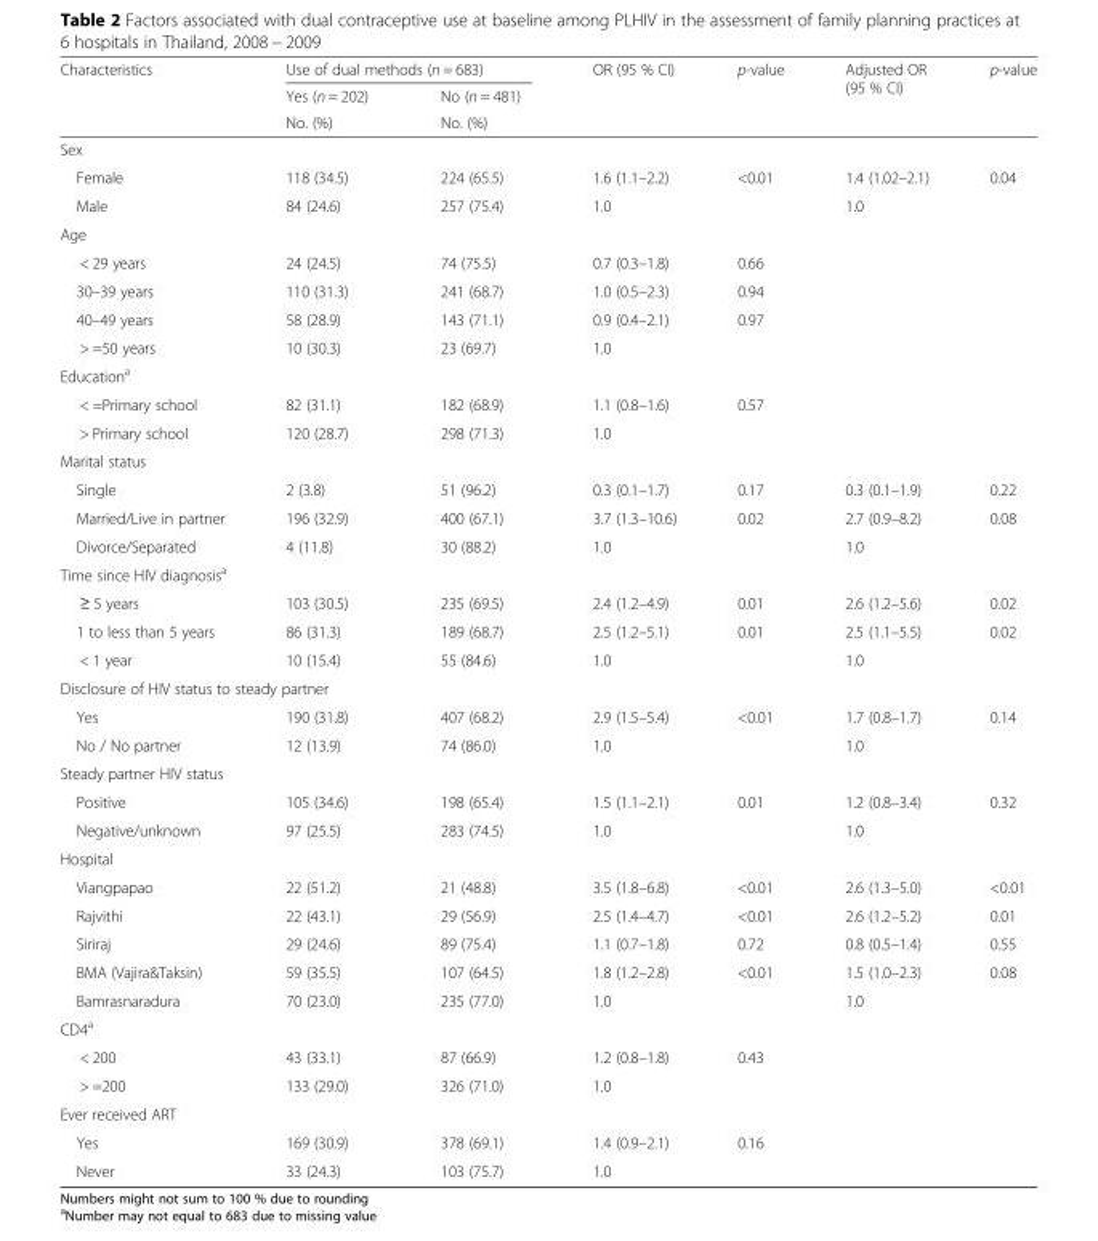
<table><thead><tr><td rowspan="3">Characteristics</td><td colspan="2">Use of dual methods (n = 683)</td><td rowspan="3">OR (95 % CI)</td><td rowspan="3">p-value</td><td rowspan="3">Adjusted OR (95 % CI)</td><td rowspan="3">p-value</td></tr><tr><td rowspan="2">Yes (n = 202) No. (%)</td><td rowspan="2">No (n = 481) No. (%)</td></tr><tr></tr></thead><tbody><tr><td colspan="7">Sex</td></tr><tr><td>Female</td><td>118 (34.5)</td><td>224 (65.5)</td><td>1.6 (1.1–2.2)</td><td>&lt;0.01</td><td>1.4 (1.02–2.1)</td><td>0.04</td></tr><tr><td>Male</td><td>84 (24.6)</td><td>257 (75.4)</td><td>1.0</td><td></td><td>1.0</td><td></td></tr><tr><td colspan="7">Age</td></tr><tr><td>&lt; 29 years</td><td>24 (24.5)</td><td>74 (75.5)</td><td>0.7 (0.3–1.8)</td><td>0.66</td><td></td><td></td></tr><tr><td>30–39 years</td><td>110 (31.3)</td><td>241 (68.7)</td><td>1.0 (0.5–2.3)</td><td>0.94</td><td></td><td></td></tr><tr><td>40–49 years</td><td>58 (28.9)</td><td>143 (71.1)</td><td>0.9 (0.4–2.1)</td><td>0.97</td><td></td><td></td></tr><tr><td>&gt; =50 years</td><td>10 (30.3)</td><td>23 (69.7)</td><td>1.0</td><td></td><td></td><td></td></tr><tr><td colspan="7">Education<sup>a</sup></td></tr><tr><td>&lt; =Primary school</td><td>82 (31.1)</td><td>182 (68.9)</td><td>1.1 (0.8–1.6)</td><td>0.57</td><td></td><td></td></tr><tr><td>&gt; Primary school</td><td>120 (28.7)</td><td>298 (71.3)</td><td>1.0</td><td></td><td></td><td></td></tr><tr><td colspan="7">Marital status</td></tr><tr><td>Single</td><td>2 (3.8)</td><td>51 (96.2)</td><td>0.3 (0.1–1.7)</td><td>0.17</td><td>0.3 (0.1–1.9)</td><td>0.22</td></tr><tr><td>Married/Live in partner</td><td>196 (32.9)</td><td>400 (67.1)</td><td>3.7 (1.3–10.6)</td><td>0.02</td><td>2.7 (0.9–8.2)</td><td>0.08</td></tr><tr><td>Divorce/Separated</td><td>4 (11.8)</td><td>30 (88.2)</td><td>1.0</td><td></td><td>1.0</td><td></td></tr><tr><td colspan="7">Time since HIV diagnosis<sup>a</sup></td></tr><tr><td>≥ 5 years</td><td>103 (30.5)</td><td>235 (69.5)</td><td>2.4 (1.2–4.9)</td><td>0.01</td><td>2.6 (1.2–5.6)</td><td>0.02</td></tr><tr><td>1 to less than 5 years</td><td>86 (31.3)</td><td>189 (68.7)</td><td>2.5 (1.2–5.1)</td><td>0.01</td><td>2.5 (1.1–5.5)</td><td>0.02</td></tr><tr><td>&lt; 1 year</td><td>10 (15.4)</td><td>55 (84.6)</td><td>1.0</td><td></td><td>1.0</td><td></td></tr><tr><td colspan="7">Disclosure of HIV status to steady partner</td></tr><tr><td>Yes</td><td>190 (31.8)</td><td>407 (68.2)</td><td>2.9 (1.5–5.4)</td><td>&lt;0.01</td><td>1.7 (0.8–1.7)</td><td>0.14</td></tr><tr><td>No / No partner</td><td>12 (13.9)</td><td>74 (86.0)</td><td>1.0</td><td></td><td>1.0</td><td></td></tr><tr><td colspan="7">Steady partner HIV status</td></tr><tr><td>Positive</td><td>105 (34.6)</td><td>198 (65.4)</td><td>1.5 (1.1–2.1)</td><td>0.01</td><td>1.2 (0.8–3.4)</td><td>0.32</td></tr><tr><td>Negative/unknown</td><td>97 (25.5)</td><td>283 (74.5)</td><td>1.0</td><td></td><td>1.0</td><td></td></tr><tr><td colspan="7">Hospital</td></tr><tr><td>Viangpapao</td><td>22 (51.2)</td><td>21 (48.8)</td><td>3.5 (1.8–6.8)</td><td>&lt;0.01</td><td>2.6 (1.3–5.0)</td><td>&lt;0.01</td></tr><tr><td>Rajvithi</td><td>22 (43.1)</td><td>29 (56.9)</td><td>2.5 (1.4–4.7)</td><td>&lt;0.01</td><td>2.6 (1.2–5.2)</td><td>0.01</td></tr><tr><td>Siriraj</td><td>29 (24.6)</td><td>89 (75.4)</td><td>1.1 (0.7–1.8)</td><td>0.72</td><td>0.8 (0.5–1.4)</td><td>0.55</td></tr><tr><td>BMA (Vajira&amp;Taksin)</td><td>59 (35.5)</td><td>107 (64.5)</td><td>1.8 (1.2–2.8)</td><td>&lt;0.01</td><td>1.5 (1.0–2.3)</td><td>0.08</td></tr><tr><td>Bamrasnaradura</td><td>70 (23.0)</td><td>235 (77.0)</td><td>1.0</td><td></td><td>1.0</td><td></td></tr><tr><td colspan="7">CD4<sup>a</sup></td></tr><tr><td>&lt; 200</td><td>43 (33.1)</td><td>87 (66.9)</td><td>1.2 (0.8–1.8)</td><td>0.43</td><td></td><td></td></tr><tr><td>&gt; =200</td><td>133 (29.0)</td><td>326 (71.0)</td><td>1.0</td><td></td><td></td><td></td></tr><tr><td colspan="7">Ever received ART</td></tr><tr><td>Yes</td><td>169 (30.9)</td><td>378 (69.1)</td><td>1.4 (0.9–2.1)</td><td>0.16</td><td></td><td></td></tr><tr><td>Never</td><td>33 (24.3)</td><td>103 (75.7)</td><td>1.0</td><td></td><td></td><td></td></tr></tbody></table>